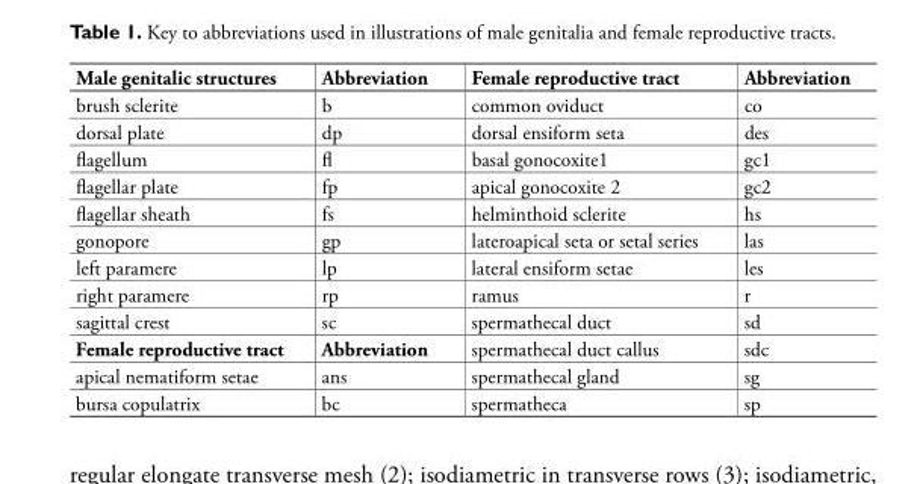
<table><thead><tr><td>Male genitalic structures</td><td>Abbreviation</td><td>Female reproductive tract</td><td>Abbreviation</td></tr></thead><tbody><tr><td>brush sclerite</td><td>b</td><td>common oviduct</td><td>co</td></tr><tr><td>dorsal plate</td><td>dp</td><td>dorsal ensiform seta</td><td>des</td></tr><tr><td>flagellum</td><td>fl</td><td>basal gonocoxite1</td><td>gc1</td></tr><tr><td>flagellar plate</td><td>fp</td><td>apical gonocoxite 2</td><td>gc2</td></tr><tr><td>flagellar sheath</td><td>fs</td><td>helminthoid sclerite</td><td>hs</td></tr><tr><td>gonopore</td><td>gp</td><td>lateroapical seta or setal series</td><td>las</td></tr><tr><td>left paramere</td><td>lp</td><td>lateral ensiform setae</td><td>les</td></tr><tr><td>right paramere</td><td>rp</td><td>ramus</td><td>r</td></tr><tr><td>sagittal crest</td><td>sc</td><td>spermathecal duct</td><td>sd</td></tr><tr><td>Female reproductive tract</td><td>Abbreviation</td><td>spermathecal duct callus</td><td>sdc</td></tr><tr><td>apical nematiform setae</td><td>ans</td><td>spermathecal gland</td><td>sg</td></tr><tr><td>bursa copulatrix</td><td>bc</td><td>spermatheca</td><td>sp</td></tr></tbody></table>